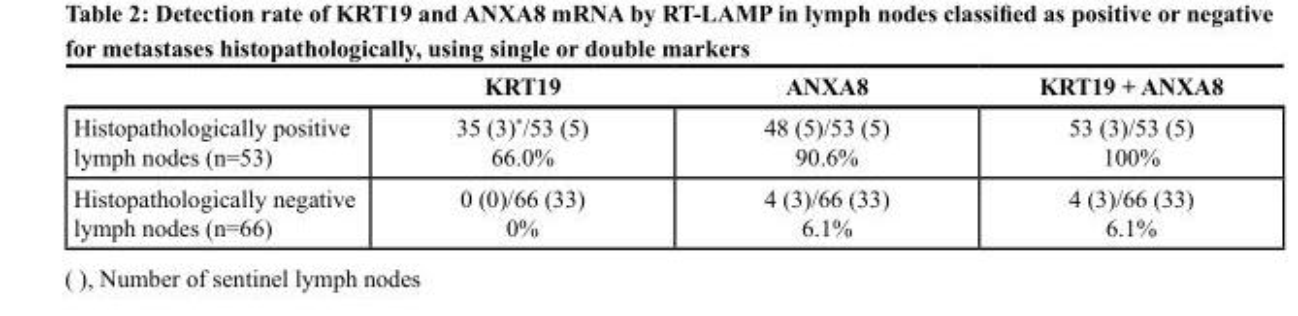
<table><thead><tr><td></td><td>KRT19</td><td>ANXA8</td><td>KRT19 + ANXA8</td></tr></thead><tbody><tr><td>Histopathologically positive lymph nodes (n=53)</td><td>35 (3)*/53 (5) 66.0%</td><td>48 (5)/53 (5) 90.6%</td><td>53 (3)/53 (5) 100%</td></tr><tr><td>Histopathologically negative lymph nodes (n=66)</td><td>0 (0)/66 (33) 0%</td><td>4 (3)/66 (33) 6.1%</td><td>4 (3)/66 (33) 6.1%</td></tr></tbody></table>